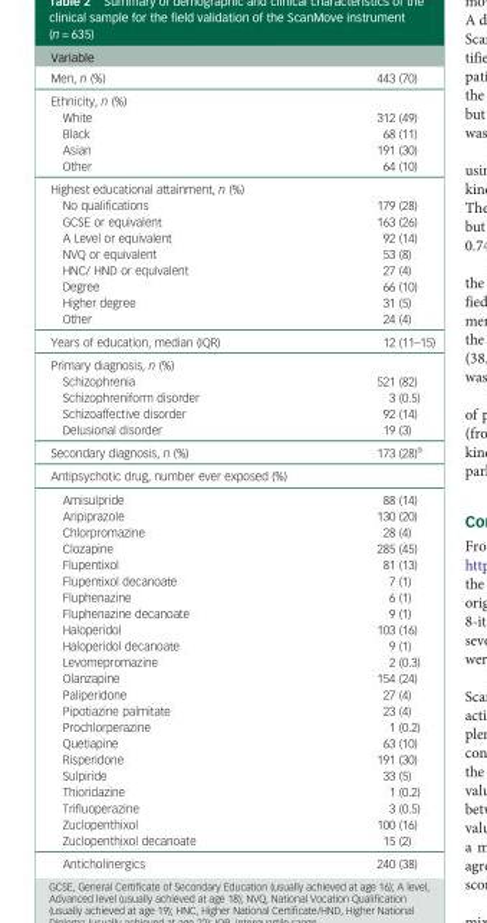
<table><thead><tr><td>Variable</td><td></td></tr></thead><tbody><tr><td>Men, n (%)</td><td>443 (70)</td></tr><tr><td colspan="2">Ethnicity, n (%)</td></tr><tr><td>White</td><td>312 (49)</td></tr><tr><td>Black</td><td>68 (11)</td></tr><tr><td>Asian</td><td>191 (30)</td></tr><tr><td>Other</td><td>64 (10)</td></tr><tr><td colspan="2">Highest educational attainment, n (%)</td></tr><tr><td>No qualifications</td><td>179 (28)</td></tr><tr><td>GCSE or equivalent</td><td>163 (26)</td></tr><tr><td>A Level or equivalent</td><td>92 (14)</td></tr><tr><td>NVQ or equivalent</td><td>53 (8)</td></tr><tr><td>HNC/ HND or equivalent</td><td>27 (4)</td></tr><tr><td>Degree</td><td>66 (10)</td></tr><tr><td>Higher degree</td><td>31 (5)</td></tr><tr><td>Other</td><td>24 (4)</td></tr><tr><td>Years of education, median (IQR)</td><td>12 (11–15)</td></tr><tr><td colspan="2">Primary diagnosis, n (%)</td></tr><tr><td>Schizophrenia</td><td>521 (82)</td></tr><tr><td>Schizophreniform disorder</td><td>3 (0.5)</td></tr><tr><td>Schizoaffective disorder</td><td>92 (14)</td></tr><tr><td>Delusional disorder</td><td>19 (3)</td></tr><tr><td>Secondary diagnosis, n (%)</td><td>173 (28)<sup>a</sup></td></tr><tr><td colspan="2">Antipsychotic drug, number ever exposed (%)</td></tr><tr><td>Amisulpride</td><td>88 (14)</td></tr><tr><td>Aripiprazole</td><td>130 (20)</td></tr><tr><td>Chlorpromazine</td><td>28 (4)</td></tr><tr><td>Clozapine</td><td>285 (45)</td></tr><tr><td>Flupentixol</td><td>81 (13)</td></tr><tr><td>Flupentixol decanoate</td><td>7 (1)</td></tr><tr><td>Fluphenazine</td><td>6 (1)</td></tr><tr><td>Fluphenazine decanoate</td><td>9 (1)</td></tr><tr><td>Haloperidol</td><td>103 (16)</td></tr><tr><td>Haloperidol decanoate</td><td>9 (1)</td></tr><tr><td>Levomepromazine</td><td>2 (0.3)</td></tr><tr><td>Olanzapine</td><td>154 (24)</td></tr><tr><td>Paliperidone</td><td>27 (4)</td></tr><tr><td>Pipotiazine palmitate</td><td>23 (4)</td></tr><tr><td>Prochlorperazine</td><td>1 (0.2)</td></tr><tr><td>Quetiapine</td><td>63 (10)</td></tr><tr><td>Risperidone</td><td>191 (30)</td></tr><tr><td>Sulpiride</td><td>33 (5)</td></tr><tr><td>Thioridazine</td><td>1 (0.2)</td></tr><tr><td>Trifluoperazine</td><td>3 (0.5)</td></tr><tr><td>Zuclopenthixol</td><td>100 (16)</td></tr><tr><td>Zuclopenthixol decanoate</td><td>15 (2)</td></tr><tr><td>Anticholinergics</td><td>240 (38)</td></tr></tbody></table>